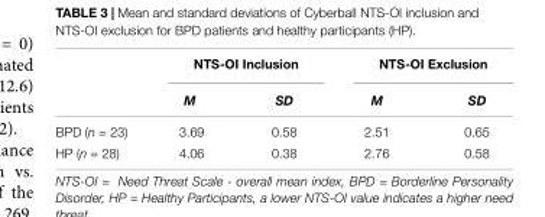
<table><thead><tr><td rowspan="2"></td><td colspan="2">NTS-OI Inclusion</td><td colspan="2">NTS-OI Exclusion</td></tr><tr><td>M</td><td>SD</td><td>M</td><td>SD</td></tr></thead><tbody><tr><td>BPD (n = 23)</td><td>3.69</td><td>0.58</td><td>2.51</td><td>0.65</td></tr><tr><td>HP (n = 28)</td><td>4.06</td><td>0.38</td><td>2.76</td><td>0.58</td></tr></tbody></table>